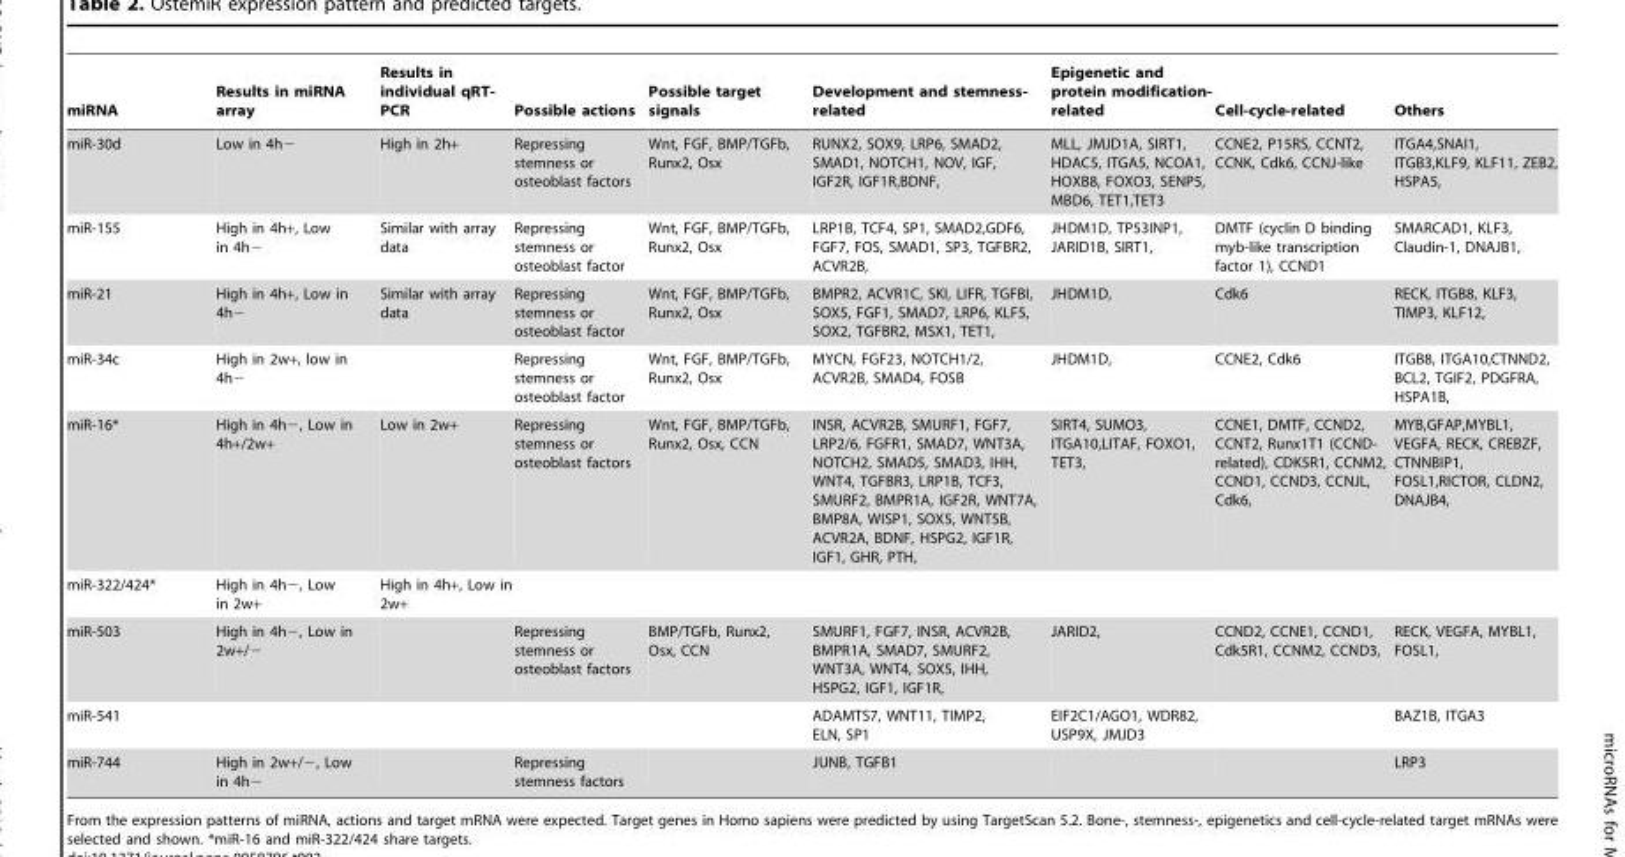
<table><thead><tr><td>miRNA</td><td>Results in miRNA array</td><td>Results in individual qRT- PCR</td><td>Possible actions</td><td>Possible target signals</td><td>Development and stemness- related</td><td>Epigenetic and protein modification- related</td><td>Cell-cycle-related</td><td>Others</td></tr></thead><tbody><tr><td>miR-30d</td><td>Low in 4h−</td><td>High in 2h+</td><td>Repressing stemness or osteoblast factors</td><td>Wnt, FGF, BMP/TGFb, Runx2, Osx</td><td>RUNX2, SOX9, LRP6, SMAD2, SMAD1, NOTCH1, NOV, IGF, IGF2R, IGF1R,BDNF,</td><td>MLL, JMJD1A, SIRT1, HDAC5, ITGA5, NCOA1, HOXB8, FOXO3, SENP5, MBD6, TET1,TET3</td><td>CCNE2, P15RS, CCNT2, CCNK, Cdk6, CCNJ-like</td><td>ITGA4,SNAI1, ITGB3,KLF9, KLF11, ZEB2, HSPA5,</td></tr><tr><td>miR-155</td><td>High in 4h+, Low in 4h−</td><td>Similar with array data</td><td>Repressing stemness or osteoblast factor</td><td>Wnt, FGF, BMP/TGFb, Runx2, Osx</td><td>LRP1B, TCF4, SP1, SMAD2,GDF6, FGF7, FOS, SMAD1, SP3, TGFBR2, ACVR2B,</td><td>JHDM1D, TP53INP1, JARID1B, SIRT1,</td><td>DMTF (cyclin D binding myb-like transcription factor 1), CCND1</td><td>SMARCAD1, KLF3, Claudin-1, DNAJB1,</td></tr><tr><td>miR-21</td><td>High in 4h+, Low in 4h−</td><td>Similar with array data</td><td>Repressing stemness or osteoblast factor</td><td>Wnt, FGF, BMP/TGFb, Runx2, Osx</td><td>BMPR2, ACVR1C, SKI, LIFR, TGFBI, SOX5, FGF1, SMAD7, LRP6, KLF5, SOX2, TGFBR2, MSX1, TET1,</td><td>JHDM1D,</td><td>Cdk6</td><td>RECK, ITGB8, KLF3, TIMP3, KLF12,</td></tr><tr><td>miR-34c</td><td>High in 2w+, low in 4h−</td><td></td><td>Repressing stemness or osteoblast factor</td><td>Wnt, FGF, BMP/TGFb, Runx2, Osx</td><td>MYCN, FGF23, NOTCH1/2, ACVR2B, SMAD4, FOSB</td><td>JHDM1D,</td><td>CCNE2, Cdk6</td><td>ITGB8, ITGA10,CTNND2, BCL2, TGIF2, PDGFRA, HSPA1B,</td></tr><tr><td>miR-16*</td><td>High in 4h−, Low in 4h+/2w+</td><td>Low in 2w+</td><td>Repressing stemness or osteoblast factors</td><td>Wnt, FGF, BMP/TGFb, Runx2, Osx, CCN</td><td>INSR, ACVR2B, SMURF1, FGF7, LRP2/6, FGFR1, SMAD7, WNT3A, NOTCH2, SMAD5, SMAD3, IHH, WNT4, TGFBR3, LRP1B, TCF3, SMURF2, BMPR1A, IGF2R, WNT7A, BMP8A, WISP1, SOX5, WNT5B, ACVR2A, BDNF, HSPG2, IGF1R, IGF1, GHR, PTH,</td><td>SIRT4, SUMO3, ITGA10,LITAF, FOXO1, TET3,</td><td>CCNE1, DMTF, CCND2, CCNT2, Runx1T1 (CCND- related), CDK5R1, CCNM2, CCND1, CCND3, CCNJL, Cdk6,</td><td>MYB,GFAP,MYBL1, VEGFA, RECK, CREBZF, CTNNBIP1, FOSL1,RICTOR, CLDN2, DNAJB4,</td></tr><tr><td>miR-322/424*</td><td>High in 4h−, Low in 2w+</td><td>High in 4h+, Low in 2w+</td><td></td><td></td><td></td><td></td><td></td><td></td></tr><tr><td>miR-503</td><td>High in 4h−, Low in 2w+/−</td><td></td><td>Repressing stemness or osteoblast factors</td><td>BMP/TGFb, Runx2, Osx, CCN</td><td>SMURF1, FGF7, INSR, ACVR2B, BMPR1A, SMAD7, SMURF2, WNT3A, WNT4, SOX5, IHH, HSPG2, IGF1, IGF1R,</td><td>JARID2,</td><td>CCND2, CCNE1, CCND1, Cdk5R1, CCNM2, CCND3,</td><td>RECK, VEGFA, MYBL1, FOSL1,</td></tr><tr><td>miR-541</td><td></td><td></td><td></td><td></td><td>ADAMTS7, WNT11, TIMP2, ELN, SP1</td><td>EIF2C1/AGO1, WDR82, USP9X, JMJD3</td><td></td><td>BAZ1B, ITGA3</td></tr><tr><td>miR-744</td><td>High in 2w+/−, Low in 4h−</td><td></td><td>Repressing stemness factors</td><td></td><td>JUNB, TGFB1</td><td></td><td></td><td>LRP3</td></tr></tbody></table>